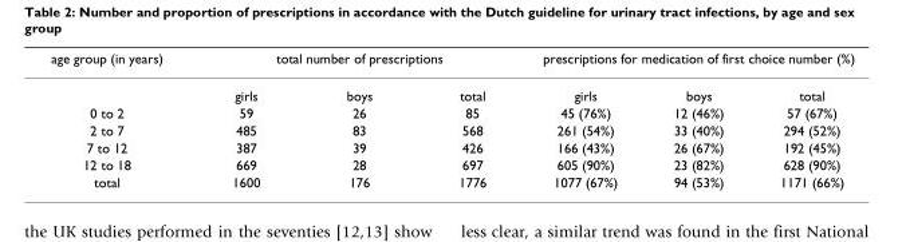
<table><thead><tr><td rowspan="2">age group (in years)</td><td colspan="3">total number of prescriptions</td><td colspan="3">prescriptions for medication of first choice number (%)</td></tr><tr><td>girls</td><td>boys</td><td>total</td><td>girls</td><td>boys</td><td>total</td></tr></thead><tbody><tr><td>0 to 2</td><td>59</td><td>26</td><td>85</td><td>45 (76%)</td><td>12 (46%)</td><td>57 (67%)</td></tr><tr><td>2 to 7</td><td>485</td><td>83</td><td>568</td><td>261 (54%)</td><td>33 (40%)</td><td>294 (52%)</td></tr><tr><td>7 to 12</td><td>387</td><td>39</td><td>426</td><td>166 (43%)</td><td>26 (67%)</td><td>192 (45%)</td></tr><tr><td>12 to 18</td><td>669</td><td>28</td><td>697</td><td>605 (90%)</td><td>23 (82%)</td><td>628 (90%)</td></tr><tr><td>total</td><td>1600</td><td>176</td><td>1776</td><td>1077 (67%)</td><td>94 (53%)</td><td>1171 (66%)</td></tr></tbody></table>